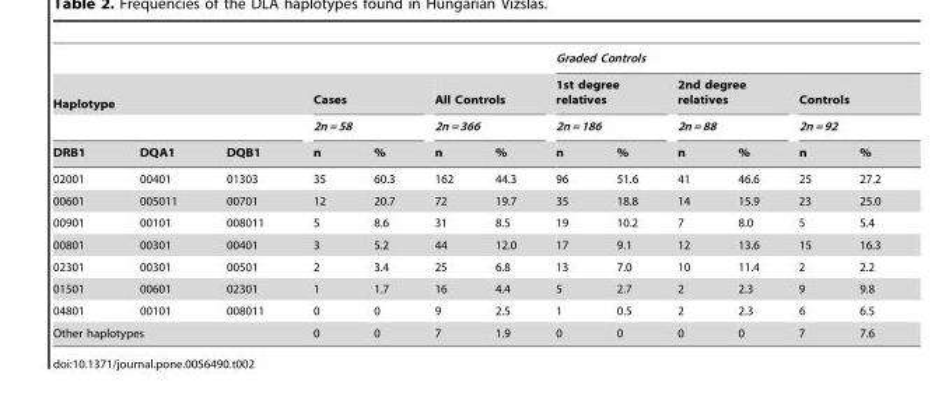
<table><thead><tr><td></td><td></td><td></td><td></td><td></td><td></td><td></td><td colspan="6">Graded Controls</td></tr><tr><td colspan="3">Haplotype</td><td rowspan="2" colspan="2">Cases 2n = 58</td><td rowspan="2" colspan="2">All Controls 2n = 366</td><td rowspan="2" colspan="2">1st degree relatives 2n = 186</td><td rowspan="2" colspan="2">2nd degree relatives 2n = 88</td><td rowspan="2" colspan="2">Controls 2n = 92</td></tr><tr><td rowspan="2">DRB1</td><td rowspan="2">DQA1</td><td rowspan="2">DQB1</td></tr><tr><td>n</td><td>%</td><td>n</td><td>%</td><td>n</td><td>%</td><td>n</td><td>%</td><td>n</td><td>%</td></tr></thead><tbody><tr><td>02001</td><td>00401</td><td>01303</td><td>35</td><td>60.3</td><td>162</td><td>44.3</td><td>96</td><td>51.6</td><td>41</td><td>46.6</td><td>25</td><td>27.2</td></tr><tr><td>00601</td><td>005011</td><td>00701</td><td>12</td><td>20.7</td><td>72</td><td>19.7</td><td>35</td><td>18.8</td><td>14</td><td>15.9</td><td>23</td><td>25.0</td></tr><tr><td>00901</td><td>00101</td><td>008011</td><td>5</td><td>8.6</td><td>31</td><td>8.5</td><td>19</td><td>10.2</td><td>7</td><td>8.0</td><td>5</td><td>5.4</td></tr><tr><td>00801</td><td>00301</td><td>00401</td><td>3</td><td>5.2</td><td>44</td><td>12.0</td><td>17</td><td>9.1</td><td>12</td><td>13.6</td><td>15</td><td>16.3</td></tr><tr><td>02301</td><td>00301</td><td>00501</td><td>2</td><td>3.4</td><td>25</td><td>6.8</td><td>13</td><td>7.0</td><td>10</td><td>11.4</td><td>2</td><td>2.2</td></tr><tr><td>01501</td><td>00601</td><td>02301</td><td>1</td><td>1.7</td><td>16</td><td>4.4</td><td>5</td><td>2.7</td><td>2</td><td>2.3</td><td>9</td><td>9.8</td></tr><tr><td>04801</td><td>00101</td><td>008011</td><td>0</td><td>0</td><td>9</td><td>2.5</td><td>1</td><td>0.5</td><td>2</td><td>2.3</td><td>6</td><td>6.5</td></tr><tr><td colspan="3">Other haplotypes</td><td>0</td><td>0</td><td>7</td><td>1.9</td><td>0</td><td>0</td><td>0</td><td>0</td><td>7</td><td>7.6</td></tr></tbody></table>